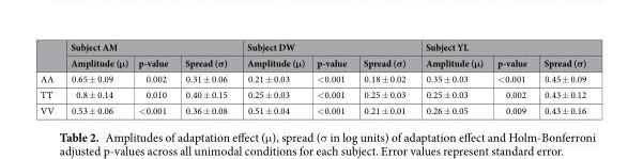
<table><thead><tr><td rowspan="2"></td><td colspan="3">Subject AM</td><td colspan="3">Subject DW</td><td colspan="3">Subject YL</td></tr><tr><td>Amplitude (μ)</td><td>p-value</td><td>Spread (σ)</td><td>Amplitude (μ)</td><td>p-value</td><td>Spread (σ)</td><td>Amplitude (μ)</td><td>p-value</td><td>Spread (σ)</td></tr></thead><tbody><tr><td>AA</td><td>0.65 ± 0.09</td><td>0.002</td><td>0.31 ± 0.06</td><td>0.21 ± 0.03</td><td>&lt;0.001</td><td>0.18 ± 0.02</td><td>0.35 ± 0.03</td><td>&lt;0.001</td><td>0.45 ± 0.09</td></tr><tr><td>TT</td><td>0.8 ± 0.14</td><td>0.010</td><td>0.40 ± 0.15</td><td>0.25 ± 0.03</td><td>&lt;0.001</td><td>0.25 ± 0.03</td><td>0.25 ± 0.03</td><td>0.002</td><td>0.43 ± 0.12</td></tr><tr><td>VV</td><td>0.53 ± 0.06</td><td>&lt;0.001</td><td>0.36 ± 0.08</td><td>0.51 ± 0.04</td><td>&lt;0.001</td><td>0.21 ± 0.01</td><td>0.26 ± 0.05</td><td>0.009</td><td>0.43 ± 0.16</td></tr></tbody></table>